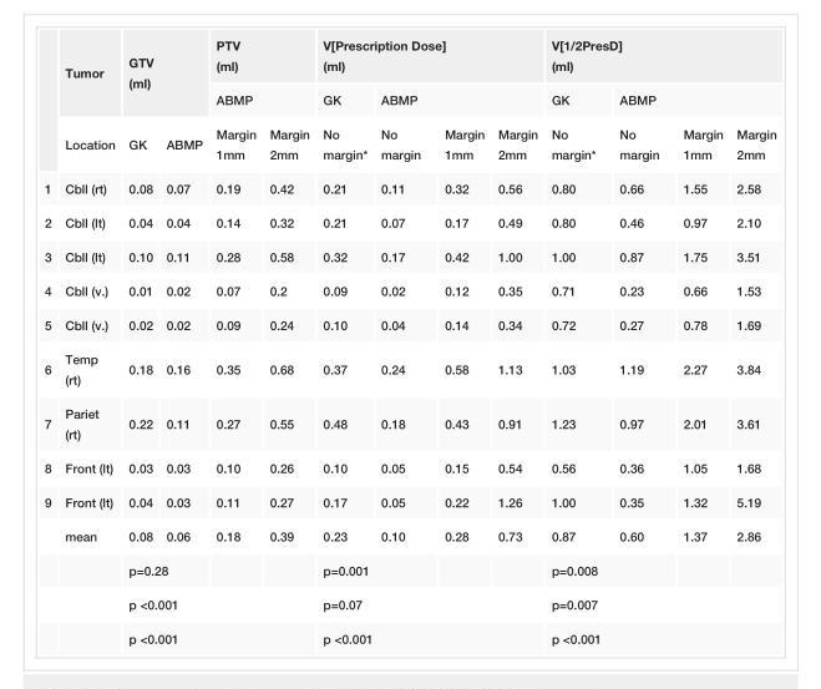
<table><thead><tr><td rowspan="3"></td><td rowspan="3">Tumor Location</td><td rowspan="2" colspan="2">GTV (ml)</td><td rowspan="2" colspan="2">PTV (ml) ABMP</td><td colspan="4">V[Prescription Dose] (ml)</td><td colspan="4">V[1/2PresD] (ml)</td></tr><tr><td rowspan="2">GK No margin*</td><td colspan="3">ABMP</td><td rowspan="2">GK No margin*</td><td colspan="3">ABMP</td></tr><tr><td>GK</td><td>ABMP</td><td>Margin 1mm</td><td>Margin 2mm</td><td>No margin</td><td>Margin 1mm</td><td>Margin 2mm</td><td>No margin</td><td>Margin 1mm</td><td>Margin 2mm</td></tr></thead><tbody><tr><td>1</td><td>Cbll (rt)</td><td>0.08</td><td>0.07</td><td>0.19</td><td>0.42</td><td>0.21</td><td>0.11</td><td>0.32</td><td>0.56</td><td>0.80</td><td>0.66</td><td>1.55</td><td>2.58</td></tr><tr><td>2</td><td>Cbll (lt)</td><td>0.04</td><td>0.04</td><td>0.14</td><td>0.32</td><td>0.21</td><td>0.07</td><td>0.17</td><td>0.49</td><td>0.80</td><td>0.46</td><td>0.97</td><td>2.10</td></tr><tr><td>3</td><td>Cbll (lt)</td><td>0.10</td><td>0.11</td><td>0.28</td><td>0.58</td><td>0.32</td><td>0.17</td><td>0.42</td><td>1.00</td><td>1.00</td><td>0.87</td><td>1.75</td><td>3.51</td></tr><tr><td>4</td><td>Cbll (v.)</td><td>0.01</td><td>0.02</td><td>0.07</td><td>0.2</td><td>0.09</td><td>0.02</td><td>0.12</td><td>0.35</td><td>0.71</td><td>0.23</td><td>0.66</td><td>1.53</td></tr><tr><td>5</td><td>Cbll (v.)</td><td>0.02</td><td>0.02</td><td>0.09</td><td>0.24</td><td>0.10</td><td>0.04</td><td>0.14</td><td>0.34</td><td>0.72</td><td>0.27</td><td>0.78</td><td>1.69</td></tr><tr><td>6</td><td>Temp (rt)</td><td>0.18</td><td>0.16</td><td>0.35</td><td>0.68</td><td>0.37</td><td>0.24</td><td>0.58</td><td>1.13</td><td>1.03</td><td>1.19</td><td>2.27</td><td>3.84</td></tr><tr><td>7</td><td>Pariet (rt)</td><td>0.22</td><td>0.11</td><td>0.27</td><td>0.55</td><td>0.48</td><td>0.18</td><td>0.43</td><td>0.91</td><td>1.23</td><td>0.97</td><td>2.01</td><td>3.61</td></tr><tr><td>8</td><td>Front (lt)</td><td>0.03</td><td>0.03</td><td>0.10</td><td>0.26</td><td>0.10</td><td>0.05</td><td>0.15</td><td>0.54</td><td>0.56</td><td>0.36</td><td>1.05</td><td>1.68</td></tr><tr><td rowspan="5">9</td><td>Front (lt)</td><td>0.04</td><td>0.03</td><td>0.11</td><td>0.27</td><td>0.17</td><td>0.05</td><td>0.22</td><td>1.26</td><td>1.00</td><td>0.35</td><td>1.32</td><td>5.19</td></tr><tr><td>mean</td><td>0.08</td><td>0.06</td><td>0.18</td><td>0.39</td><td>0.23</td><td>0.10</td><td>0.28</td><td>0.73</td><td>0.87</td><td>0.60</td><td>1.37</td><td>2.86</td></tr><tr><td></td><td colspan="2">p=0.28</td><td></td><td></td><td colspan="2">p=0.001</td><td></td><td></td><td colspan="2">p=0.008</td><td></td><td></td></tr><tr><td></td><td colspan="3">p &lt;0.001</td><td></td><td colspan="3">p=0.07</td><td></td><td colspan="3">p=0.007</td><td></td></tr><tr><td></td><td colspan="4">p &lt;0.001</td><td colspan="4">p &lt;0.001</td><td colspan="4">p &lt;0.001</td></tr></tbody></table>